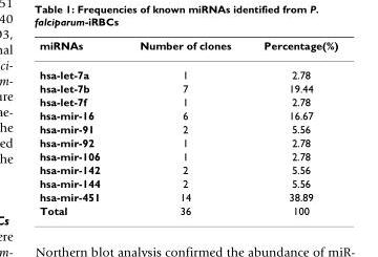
<table><thead><tr><td>miRNAs</td><td>Number of clones</td><td>Percentage(%)</td></tr></thead><tbody><tr><td>hsa-let-7a</td><td>1</td><td>2.78</td></tr><tr><td>hsa-let-7b</td><td>7</td><td>19.44</td></tr><tr><td>hsa-let-7f</td><td>1</td><td>2.78</td></tr><tr><td>hsa-mir-16</td><td>6</td><td>16.67</td></tr><tr><td>hsa-mir-91</td><td>2</td><td>5.56</td></tr><tr><td>hsa-mir-92</td><td>1</td><td>2.78</td></tr><tr><td>hsa-mir-106</td><td>1</td><td>2.78</td></tr><tr><td>hsa-mir-142</td><td>2</td><td>5.56</td></tr><tr><td>hsa-mir-144</td><td>2</td><td>5.56</td></tr><tr><td>hsa-mir-451</td><td>14</td><td>38.89</td></tr><tr><td>Total</td><td>36</td><td>100</td></tr></tbody></table>